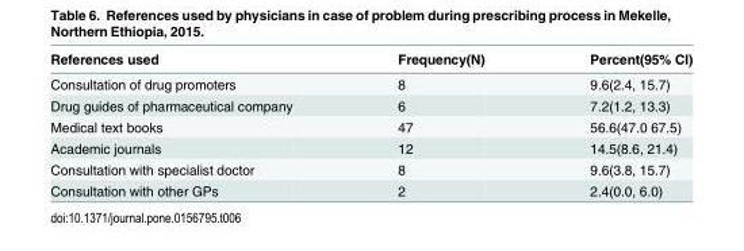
<table><thead><tr><td>References used</td><td>Frequency(N)</td><td>Percent(95% CI)</td></tr></thead><tbody><tr><td>Consultation of drug promoters</td><td>8</td><td>9.6(2.4, 15.7)</td></tr><tr><td>Drug guides of pharmaceutical company</td><td>6</td><td>7.2(1.2, 13.3)</td></tr><tr><td>Medical text books</td><td>47</td><td>56.6(47.0 67.5)</td></tr><tr><td>Academic journals</td><td>12</td><td>14.5(8.6, 21.4)</td></tr><tr><td>Consultation with specialist doctor</td><td>8</td><td>9.6(3.8, 15.7)</td></tr><tr><td>Consultation with other GPs</td><td>2</td><td>2.4(0.0, 6.0)</td></tr></tbody></table>